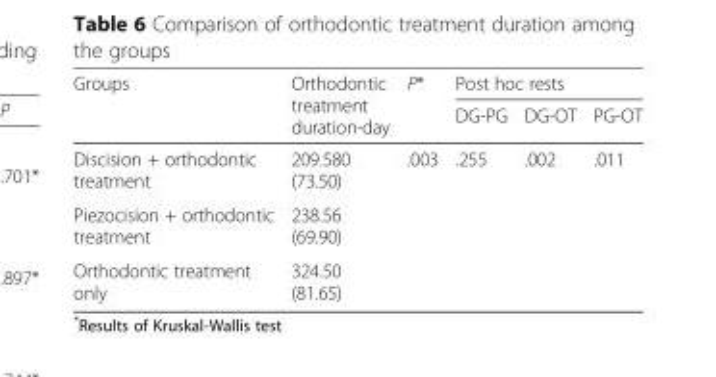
<table><thead><tr><td rowspan="2">Groups</td><td rowspan="2">Orthodontic treatment duration-day</td><td rowspan="2">P*</td><td colspan="3">Post hoc rests</td></tr><tr><td>DG-PG</td><td>DG-OT</td><td>PG-OT</td></tr></thead><tbody><tr><td>Discision + orthodontic treatment</td><td>209.580 (73.50)</td><td rowspan="3">.003</td><td rowspan="3">.255</td><td rowspan="3">.002</td><td rowspan="3">.011</td></tr><tr><td>Piezocision + orthodontic treatment</td><td>238.56 (69.90)</td></tr><tr><td>Orthodontic treatment only</td><td>324.50 (81.65)</td></tr></tbody></table>